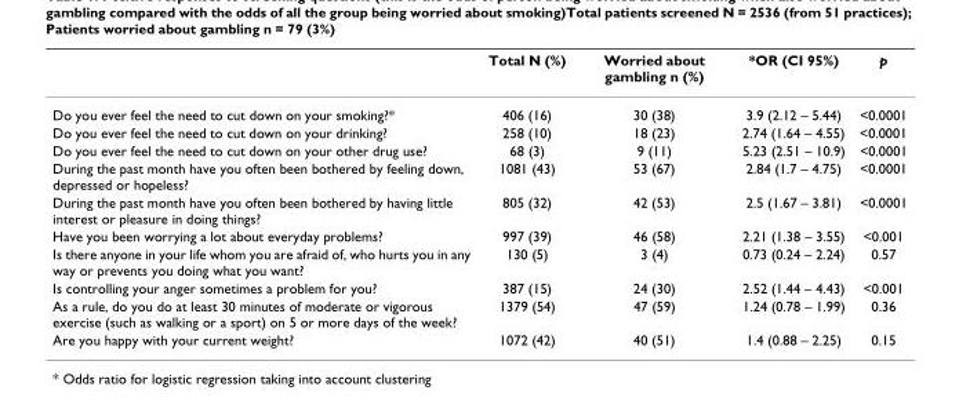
<table><thead><tr><td></td><td>Total N (%)</td><td>Worried about gambling n (%)</td><td>*OR (CI 95%)</td><td>p</td></tr></thead><tbody><tr><td>Do you ever feel the need to cut down on your smoking?*</td><td>406 (16)</td><td>30 (38)</td><td>3.9 (2.12 – 5.44)</td><td>&lt;0.0001</td></tr><tr><td>Do you ever feel the need to cut down on your drinking?</td><td>258 (10)</td><td>18 (23)</td><td>2.74 (1.64 – 4.55)</td><td>&lt;0.0001</td></tr><tr><td>Do you ever feel the need to cut down on your other drug use?</td><td>68 (3)</td><td>9 (11)</td><td>5.23 (2.51 – 10.9)</td><td>&lt;0.0001</td></tr><tr><td>During the past month have you often been bothered by feeling down, depressed or hopeless?</td><td>1081 (43)</td><td>53 (67)</td><td>2.84 (1.7 – 4.75)</td><td>&lt;0.0001</td></tr><tr><td>During the past month have you often been bothered by having little interest or pleasure in doing things?</td><td>805 (32)</td><td>42 (53)</td><td>2.5 (1.67 – 3.81)</td><td>&lt;0.0001</td></tr><tr><td>Have you been worrying a lot about everyday problems?</td><td>997 (39)</td><td>46 (58)</td><td>2.21 (1.38 – 3.55)</td><td>&lt;0.001</td></tr><tr><td>Is there anyone in your life whom you are afraid of, who hurts you in any way or prevents you doing what you want?</td><td>130 (5)</td><td>3 (4)</td><td>0.73 (0.24 – 2.24)</td><td>0.57</td></tr><tr><td>Is controlling your anger sometimes a problem for you?</td><td>387 (15)</td><td>24 (30)</td><td>2.52 (1.44 – 4.43)</td><td>&lt;0.001</td></tr><tr><td>As a rule, do you do at least 30 minutes of moderate or vigorous exercise (such as walking or a sport) on 5 or more days of the week?</td><td>1379 (54)</td><td>47 (59)</td><td>1.24 (0.78 – 1.99)</td><td>0.36</td></tr><tr><td>Are you happy with your current weight?</td><td>1072 (42)</td><td>40 (51)</td><td>1.4 (0.88 – 2.25)</td><td>0.15</td></tr></tbody></table>